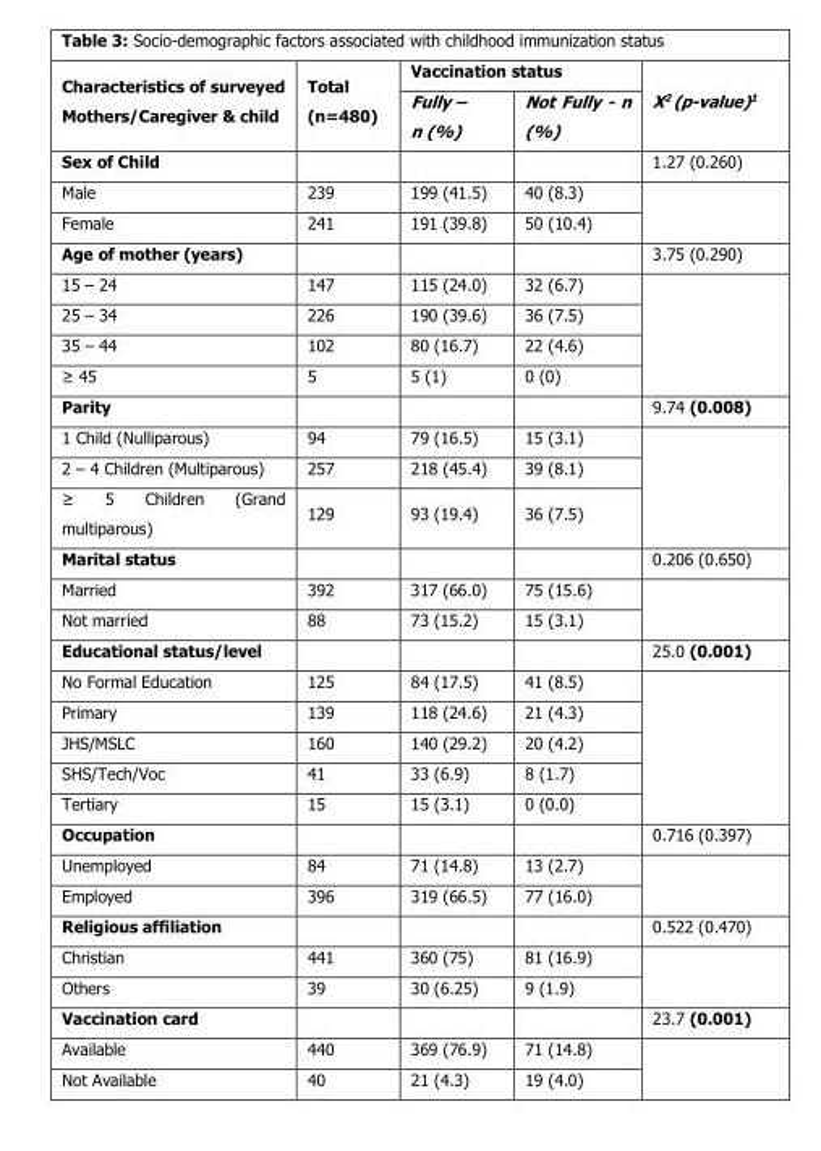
<table><thead><tr><td rowspan="2">Characteristics of surveyed Mothers/Caregiver &amp; child</td><td rowspan="2">Total (n=480)</td><td colspan="2">Vaccination status</td><td rowspan="2">X2 (p-value)<sup>1</sup></td></tr><tr><td>Fully – n (%)</td><td>Not Fully - n (%)</td></tr></thead><tbody><tr><td>Sex of Child</td><td></td><td></td><td></td><td>1.27 (0.260)</td></tr><tr><td>Male</td><td>239</td><td>199 (41.5)</td><td>40 (8.3)</td><td rowspan="2"></td></tr><tr><td>Female</td><td>241</td><td>191 (39.8)</td><td>50 (10.4)</td></tr><tr><td>Age of mother (years)</td><td></td><td></td><td></td><td>3.75 (0.290)</td></tr><tr><td>15 – 24</td><td>147</td><td>115 (24.0)</td><td>32 (6.7)</td><td rowspan="4"></td></tr><tr><td>25 – 34</td><td>226</td><td>190 (39.6)</td><td>36 (7.5)</td></tr><tr><td>35 – 44</td><td>102</td><td>80 (16.7)</td><td>22 (4.6)</td></tr><tr><td>≥ 45</td><td>5</td><td>5 (1)</td><td>0 (0)</td></tr><tr><td>Parity</td><td></td><td></td><td></td><td>9.74 (0.008)</td></tr><tr><td>1 Child (Nulliparous)</td><td>94</td><td>79 (16.5)</td><td>15 (3.1)</td><td rowspan="3"></td></tr><tr><td>2 – 4 Children (Multiparous)</td><td>257</td><td>218 (45.4)</td><td>39 (8.1)</td></tr><tr><td>≥ 5 Children (Grand multiparous)</td><td>129</td><td>93 (19.4)</td><td>36 (7.5)</td></tr><tr><td>Marital status</td><td></td><td></td><td></td><td>0.206 (0.650)</td></tr><tr><td>Married</td><td>392</td><td>317 (66.0)</td><td>75 (15.6)</td><td rowspan="2"></td></tr><tr><td>Not married</td><td>88</td><td>73 (15.2)</td><td>15 (3.1)</td></tr><tr><td>Educational status/level</td><td></td><td></td><td></td><td>25.0 (0.001)</td></tr><tr><td>No Formal Education</td><td>125</td><td>84 (17.5)</td><td>41 (8.5)</td><td rowspan="5"></td></tr><tr><td>Primary</td><td>139</td><td>118 (24.6)</td><td>21 (4.3)</td></tr><tr><td>JHS/MSLC</td><td>160</td><td>140 (29.2)</td><td>20 (4.2)</td></tr><tr><td>SHS/Tech/Voc</td><td>41</td><td>33 (6.9)</td><td>8 (1.7)</td></tr><tr><td>Tertiary</td><td>15</td><td>15 (3.1)</td><td>0 (0.0)</td></tr><tr><td>Occupation</td><td></td><td></td><td></td><td>0.716 (0.397)</td></tr><tr><td>Unemployed</td><td>84</td><td>71 (14.8)</td><td>13 (2.7)</td><td rowspan="2"></td></tr><tr><td>Employed</td><td>396</td><td>319 (66.5)</td><td>77 (16.0)</td></tr><tr><td>Religious affiliation</td><td></td><td></td><td></td><td>0.522 (0.470)</td></tr><tr><td>Christian</td><td>441</td><td>360 (75)</td><td>81 (16.9)</td><td rowspan="2"></td></tr><tr><td>Others</td><td>39</td><td>30 (6.25)</td><td>9 (1.9)</td></tr><tr><td>Vaccination card</td><td></td><td></td><td></td><td>23.7 (0.001)</td></tr><tr><td>Available</td><td>440</td><td>369 (76.9)</td><td>71 (14.8)</td><td rowspan="2"></td></tr><tr><td>Not Available</td><td>40</td><td>21 (4.3)</td><td>19 (4.0)</td></tr></tbody></table>